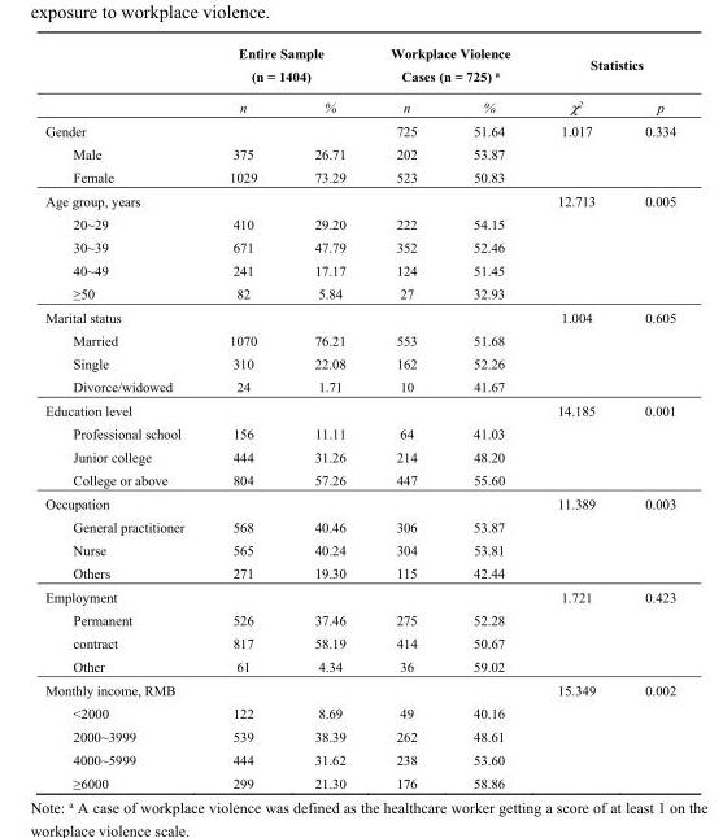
<table><thead><tr><td rowspan="2"></td><td colspan="2">Entire Sample (n = 1404)</td><td colspan="2">Workplace Violence Cases (n = 725) <sup>a</sup></td><td colspan="2">Statistics</td></tr><tr><td>n</td><td>%</td><td>n</td><td>%</td><td>χ<sup>2</sup></td><td>p</td></tr></thead><tbody><tr><td>Gender</td><td></td><td></td><td>725</td><td>51.64</td><td>1.017</td><td>0.334</td></tr><tr><td>Male</td><td>375</td><td>26.71</td><td>202</td><td>53.87</td><td></td><td></td></tr><tr><td>Female</td><td>1029</td><td>73.29</td><td>523</td><td>50.83</td><td></td><td></td></tr><tr><td>Age group, years</td><td></td><td></td><td></td><td></td><td>12.713</td><td>0.005</td></tr><tr><td>20~29</td><td>410</td><td>29.20</td><td>222</td><td>54.15</td><td></td><td></td></tr><tr><td>30~39</td><td>671</td><td>47.79</td><td>352</td><td>52.46</td><td></td><td></td></tr><tr><td>40~49</td><td>241</td><td>17.17</td><td>124</td><td>51.45</td><td></td><td></td></tr><tr><td>≥50</td><td>82</td><td>5.84</td><td>27</td><td>32.93</td><td></td><td></td></tr><tr><td>Marital status</td><td></td><td></td><td></td><td></td><td>1.004</td><td>0.605</td></tr><tr><td>Married</td><td>1070</td><td>76.21</td><td>553</td><td>51.68</td><td></td><td></td></tr><tr><td>Single</td><td>310</td><td>22.08</td><td>162</td><td>52.26</td><td></td><td></td></tr><tr><td>Divorce/widowed</td><td>24</td><td>1.71</td><td>10</td><td>41.67</td><td></td><td></td></tr><tr><td>Education level</td><td></td><td></td><td></td><td></td><td>14.185</td><td>0.001</td></tr><tr><td>Professional school</td><td>156</td><td>11.11</td><td>64</td><td>41.03</td><td></td><td></td></tr><tr><td>Junior college</td><td>444</td><td>31.26</td><td>214</td><td>48.20</td><td></td><td></td></tr><tr><td>College or above</td><td>804</td><td>57.26</td><td>447</td><td>55.60</td><td></td><td></td></tr><tr><td>Occupation</td><td></td><td></td><td></td><td></td><td>11.389</td><td>0.003</td></tr><tr><td>General practitioner</td><td>568</td><td>40.46</td><td>306</td><td>53.87</td><td></td><td></td></tr><tr><td>Nurse</td><td>565</td><td>40.24</td><td>304</td><td>53.81</td><td></td><td></td></tr><tr><td>Others</td><td>271</td><td>19.30</td><td>115</td><td>42.44</td><td></td><td></td></tr><tr><td>Employment</td><td></td><td></td><td></td><td></td><td>1.721</td><td>0.423</td></tr><tr><td>Permanent</td><td>526</td><td>37.46</td><td>275</td><td>52.28</td><td></td><td></td></tr><tr><td>contract</td><td>817</td><td>58.19</td><td>414</td><td>50.67</td><td></td><td></td></tr><tr><td>Other</td><td>61</td><td>4.34</td><td>36</td><td>59.02</td><td></td><td></td></tr><tr><td>Monthly income, RMB</td><td></td><td></td><td></td><td></td><td>15.349</td><td>0.002</td></tr><tr><td>&lt;2000</td><td>122</td><td>8.69</td><td>49</td><td>40.16</td><td></td><td></td></tr><tr><td>2000~3999</td><td>539</td><td>38.39</td><td>262</td><td>48.61</td><td></td><td></td></tr><tr><td>4000~5999</td><td>444</td><td>31.62</td><td>238</td><td>53.60</td><td></td><td></td></tr><tr><td>≥6000</td><td>299</td><td>21.30</td><td>176</td><td>58.86</td><td></td><td></td></tr></tbody></table>